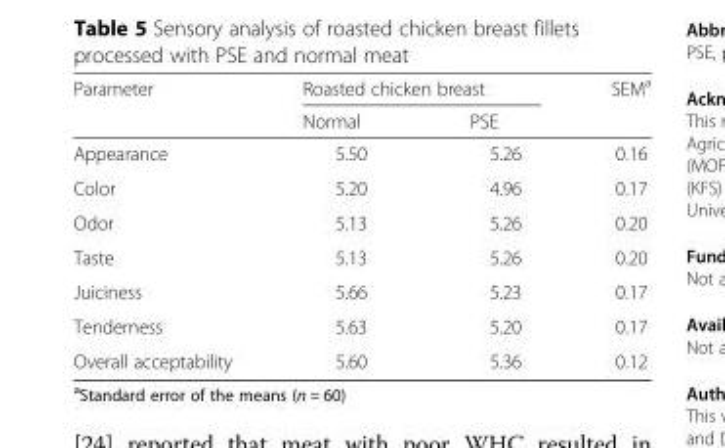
<table><thead><tr><td rowspan="2">Parameter</td><td colspan="2">Roasted chicken breast</td><td rowspan="2">SEM<sup>a</sup></td></tr><tr><td>Normal</td><td>PSE</td></tr></thead><tbody><tr><td>Appearance</td><td>5.50</td><td>5.26</td><td>0.16</td></tr><tr><td>Color</td><td>5.20</td><td>4.96</td><td>0.17</td></tr><tr><td>Odor</td><td>5.13</td><td>5.26</td><td>0.20</td></tr><tr><td>Taste</td><td>5.13</td><td>5.26</td><td>0.20</td></tr><tr><td>Juiciness</td><td>5.66</td><td>5.23</td><td>0.17</td></tr><tr><td>Tenderness</td><td>5.63</td><td>5.20</td><td>0.17</td></tr><tr><td>Overall acceptability</td><td>5.60</td><td>5.36</td><td>0.12</td></tr></tbody></table>